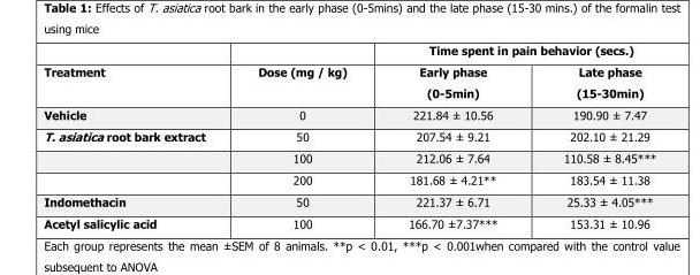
<table><thead><tr><td rowspan="2">Treatment</td><td rowspan="2">Dose (mg / kg)</td><td colspan="2">Time spent in pain behavior (secs.)</td></tr><tr><td>Early phase (0-5min)</td><td>Late phase (15-30min)</td></tr></thead><tbody><tr><td>Vehicle</td><td>0</td><td>221.84 ± 10.56</td><td>190.90 ± 7.47</td></tr><tr><td rowspan="3">T. asiatica root bark extract</td><td>50</td><td>207.54 ± 9.21</td><td>202.10 ± 21.29</td></tr><tr><td>100</td><td>212.06 ± 7.64</td><td>110.58 ± 8.45***</td></tr><tr><td>200</td><td>181.68 ± 4.21**</td><td>183.54 ± 11.38</td></tr><tr><td>Indomethacin</td><td>50</td><td>221.37 ± 6.71</td><td>25.33 ± 4.05***</td></tr><tr><td>Acetyl salicylic acid</td><td>100</td><td>166.70 ±7.37***</td><td>153.31 ± 10.96</td></tr></tbody></table>